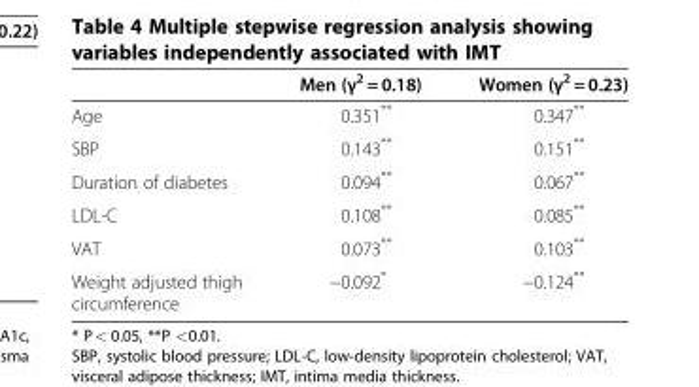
<table><thead><tr><td></td><td>Men (γ<sup>2</sup> = 0.18)</td><td>Women (γ<sup>2</sup> = 0.23)</td></tr></thead><tbody><tr><td>Age</td><td>0.351**</td><td>0.347**</td></tr><tr><td>SBP</td><td>0.143**</td><td>0.151**</td></tr><tr><td>Duration of diabetes</td><td>0.094**</td><td>0.067**</td></tr><tr><td>LDL-C</td><td>0.108**</td><td>0.085**</td></tr><tr><td>VAT</td><td>0.073**</td><td>0.103**</td></tr><tr><td>Weight adjusted thigh circumference</td><td>−0.092*</td><td>−0.124**</td></tr></tbody></table>